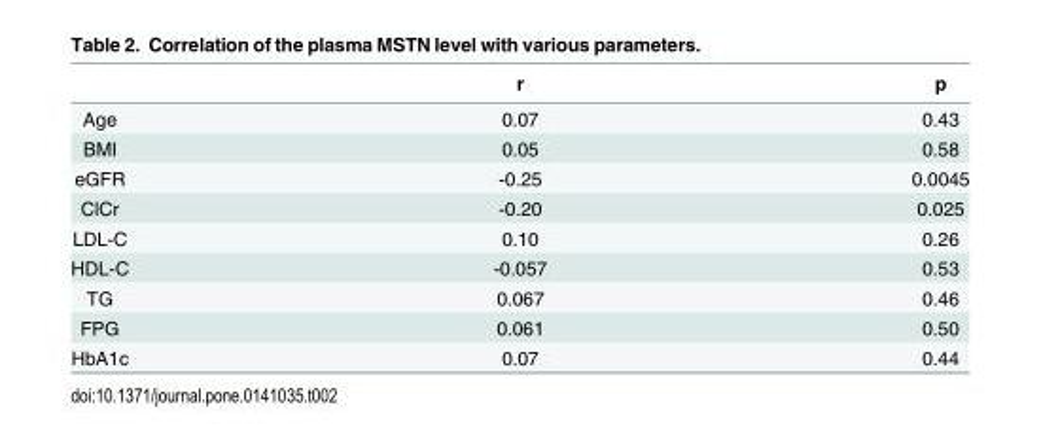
<table><thead><tr><td></td><td>r</td><td>p</td></tr></thead><tbody><tr><td>Age</td><td>0.07</td><td>0.43</td></tr><tr><td>BMI</td><td>0.05</td><td>0.58</td></tr><tr><td>eGFR</td><td>-0.25</td><td>0.0045</td></tr><tr><td>ClCr</td><td>-0.20</td><td>0.025</td></tr><tr><td>LDL-C</td><td>0.10</td><td>0.26</td></tr><tr><td>HDL-C</td><td>-0.057</td><td>0.53</td></tr><tr><td>TG</td><td>0.067</td><td>0.46</td></tr><tr><td>FPG</td><td>0.061</td><td>0.50</td></tr><tr><td>HbA1c</td><td>0.07</td><td>0.44</td></tr></tbody></table>